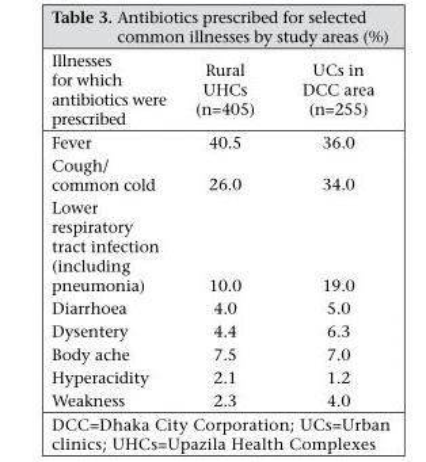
<table><thead><tr><td>Illnesses for which antibiotics were prescribed</td><td>Rural UHCs (n=405)</td><td>UCs in DCC area (n=255)</td></tr></thead><tbody><tr><td>Fever</td><td>40.5</td><td>36.0</td></tr><tr><td>Cough/ common cold</td><td>26.0</td><td>34.0</td></tr><tr><td>Lower respiratory tract infection (including pneumonia)</td><td>10.0</td><td>19.0</td></tr><tr><td>Diarrhoea</td><td>4.0</td><td>5.0</td></tr><tr><td>Dysentery</td><td>4.4</td><td>6.3</td></tr><tr><td>Body ache</td><td>7.5</td><td>7.0</td></tr><tr><td>Hyperacidity</td><td>2.1</td><td>1.2</td></tr><tr><td>Weakness</td><td>2.3</td><td>4.0</td></tr></tbody></table>